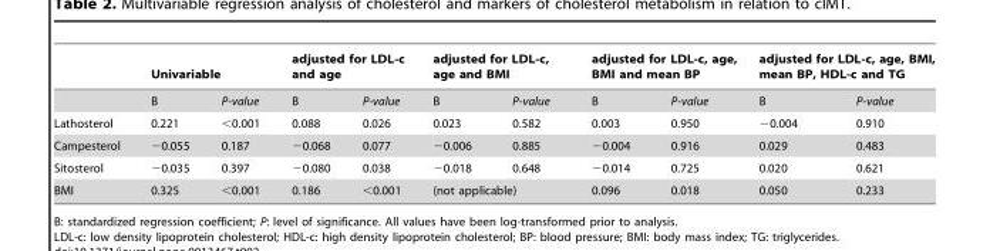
<table><thead><tr><td rowspan="2"></td><td colspan="2">Univariable</td><td colspan="2">adjusted for LDL-c and age</td><td colspan="2">adjusted for LDL-c, age and BMI</td><td colspan="2">adjusted for LDL-c, age, BMI and mean BP</td><td colspan="2">adjusted for LDL-c, age, BMI, mean BP, HDL-c and TG</td></tr><tr><td>B</td><td>P-value</td><td>B</td><td>P-value</td><td>B</td><td>P-value</td><td>B</td><td>P-value</td><td>B</td><td>P-value</td></tr></thead><tbody><tr><td>Lathosterol</td><td>0.221</td><td>&lt;0.001</td><td>0.088</td><td>0.026</td><td>0.023</td><td>0.582</td><td>0.003</td><td>0.950</td><td>−0.004</td><td>0.910</td></tr><tr><td>Campesterol</td><td>−0.055</td><td>0.187</td><td>−0.068</td><td>0.077</td><td>−0.006</td><td>0.885</td><td>−0.004</td><td>0.916</td><td>0.029</td><td>0.483</td></tr><tr><td>Sitosterol</td><td>−0.035</td><td>0.397</td><td>−0.080</td><td>0.038</td><td>−0.018</td><td>0.648</td><td>−0.014</td><td>0.725</td><td>0.020</td><td>0.621</td></tr><tr><td>BMI</td><td>0.325</td><td>&lt;0.001</td><td>0.186</td><td>&lt;0.001</td><td colspan="2">(not applicable)</td><td>0.096</td><td>0.018</td><td>0.050</td><td>0.233</td></tr></tbody></table>